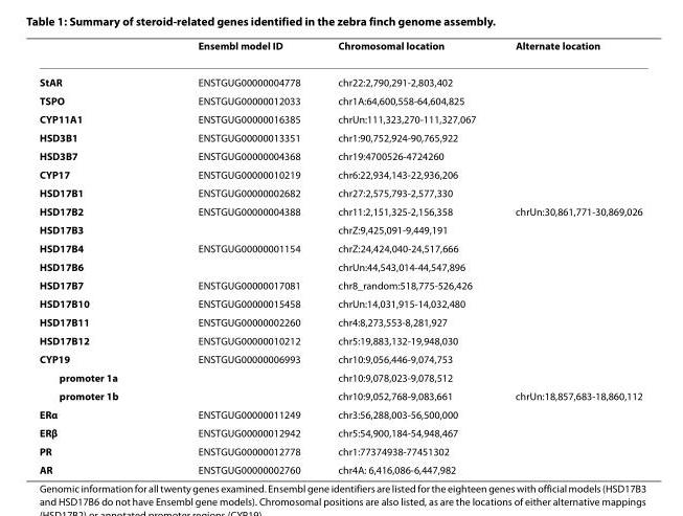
<table><thead><tr><td></td><td>Ensembl model ID</td><td>Chromosomal location</td><td>Alternate location</td></tr></thead><tbody><tr><td>StAR</td><td>ENSTGUG00000004778</td><td>chr22:2,790,291-2,803,402</td><td></td></tr><tr><td>TSPO</td><td>ENSTGUG00000012033</td><td>chr1A:64,600,558-64,604,825</td><td></td></tr><tr><td>CYP11A1</td><td>ENSTGUG00000016385</td><td>chrUn:111,323,270-111,327,067</td><td></td></tr><tr><td>HSD3B1</td><td>ENSTGUG00000013351</td><td>chr1:90,752,924-90,765,922</td><td></td></tr><tr><td>HSD3B7</td><td>ENSTGUG00000004368</td><td>chr19:4700526-4724260</td><td></td></tr><tr><td>CYP17</td><td>ENSTGUG00000010219</td><td>chr6:22,934,143-22,936,206</td><td></td></tr><tr><td>HSD17B1</td><td>ENSTGUG00000002682</td><td>chr27:2,575,793-2,577,330</td><td></td></tr><tr><td>HSD17B2</td><td>ENSTGUG00000004388</td><td>chr11:2,151,325-2,156,358</td><td>chrUn:30,861,771-30,869,026</td></tr><tr><td>HSD17B3</td><td></td><td>chrZ:9,425,091-9,449,191</td><td></td></tr><tr><td>HSD17B4</td><td>ENSTGUG00000001154</td><td>chrZ:24,424,040-24,517,666</td><td></td></tr><tr><td>HSD17B6</td><td></td><td>chrUn:44,543,014-44,547,896</td><td></td></tr><tr><td>HSD17B7</td><td>ENSTGUG00000017081</td><td>chr8_random:518,775-526,426</td><td></td></tr><tr><td>HSD17B10</td><td>ENSTGUG00000015458</td><td>chrUn:14,031,915-14,032,480</td><td></td></tr><tr><td>HSD17B11</td><td>ENSTGUG00000002260</td><td>chr4:8,273,553-8,281,927</td><td></td></tr><tr><td>HSD17B12</td><td>ENSTGUG00000010212</td><td>chr5:19,883,132-19,948,030</td><td></td></tr><tr><td>CYP19</td><td>ENSTGUG00000006993</td><td>chr10:9,056,446-9,074,753</td><td></td></tr><tr><td>promoter 1a</td><td></td><td>chr10:9,078,023-9,078,512</td><td></td></tr><tr><td>promoter 1b</td><td></td><td>chr10:9,052,768-9,083,661</td><td>chrUn:18,857,683-18,860,112</td></tr><tr><td>ERα</td><td>ENSTGUG00000011249</td><td>chr3:56,288,003-56,500,000</td><td></td></tr><tr><td>ERβ</td><td>ENSTGUG00000012942</td><td>chr5:54,900,184-54,948,467</td><td></td></tr><tr><td>PR</td><td>ENSTGUG00000012778</td><td>chr1:77374938-77451302</td><td></td></tr><tr><td>AR</td><td>ENSTGUG00000002760</td><td>chr4A: 6,416,086-6,447,982</td><td></td></tr></tbody></table>